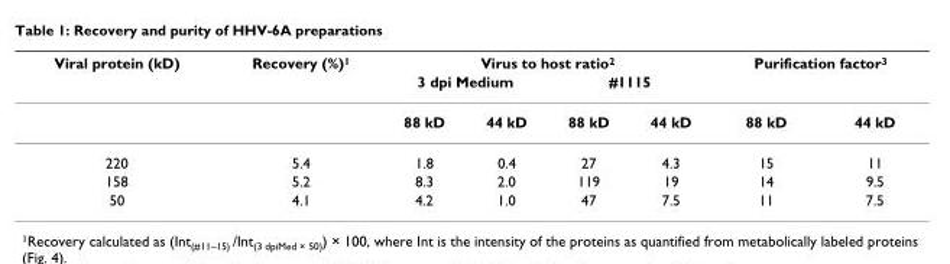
<table><thead><tr><td rowspan="3">Viral protein (kD)</td><td rowspan="3">Recovery (%)<sup>1</sup></td><td colspan="4">Virus to host ratio<sup>2</sup></td><td colspan="2">Purification factor<sup>3</sup></td></tr><tr><td colspan="2">3 dpi Medium</td><td colspan="2">#1115</td><td rowspan="2">88 kD</td><td rowspan="2">44 kD</td></tr><tr><td>88 kD</td><td>44 kD</td><td>88 kD</td><td>44 kD</td></tr></thead><tbody><tr><td>220</td><td>5.4</td><td>1.8</td><td>0.4</td><td>27</td><td>4.3</td><td>15</td><td>11</td></tr><tr><td>158</td><td>5.2</td><td>8.3</td><td>2.0</td><td>119</td><td>19</td><td>14</td><td>9.5</td></tr><tr><td>50</td><td>4.1</td><td>4.2</td><td>1.0</td><td>47</td><td>7.5</td><td>11</td><td>7.5</td></tr></tbody></table>